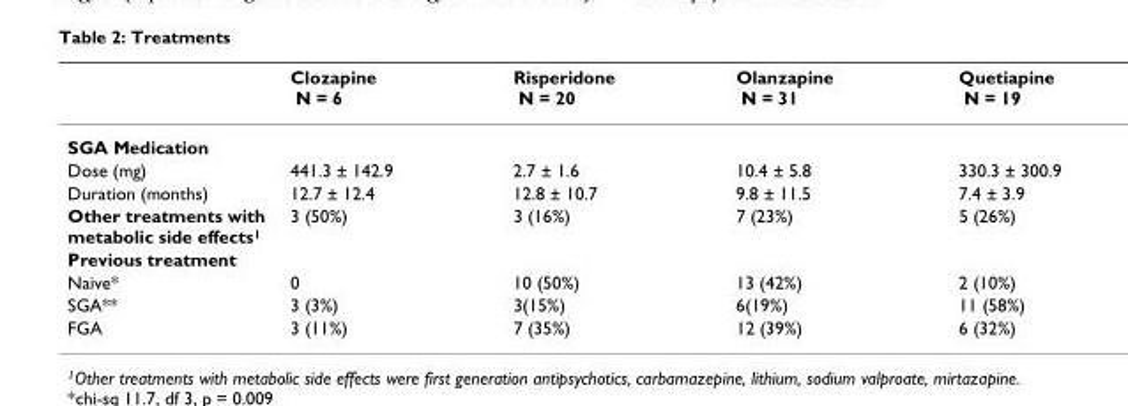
<table><thead><tr><td></td><td>Clozapine N = 6</td><td>Risperidone N = 20</td><td>Olanzapine N = 31</td><td>Quetiapine N = 19</td></tr></thead><tbody><tr><td colspan="5">SGA Medication</td></tr><tr><td>Dose (mg)</td><td>441.3 ± 142.9</td><td>2.7 ± 1.6</td><td>10.4 ± 5.8</td><td>330.3 ± 300.9</td></tr><tr><td>Duration (months)</td><td>12.7 ± 12.4</td><td>12.8 ± 10.7</td><td>9.8 ± 11.5</td><td>7.4 ± 3.9</td></tr><tr><td>Other treatments with metabolic side effects<sup>1</sup></td><td>3 (50%)</td><td>3 (16%)</td><td>7 (23%)</td><td>5 (26%)</td></tr><tr><td colspan="5">Previous treatment</td></tr><tr><td>Naive*</td><td>0</td><td>10 (50%)</td><td>13 (42%)</td><td>2 (10%)</td></tr><tr><td>SGA**</td><td>3 (3%)</td><td>3(15%)</td><td>6(19%)</td><td>11 (58%)</td></tr><tr><td>FGA</td><td>3 (11%)</td><td>7 (35%)</td><td>12 (39%)</td><td>6 (32%)</td></tr></tbody></table>